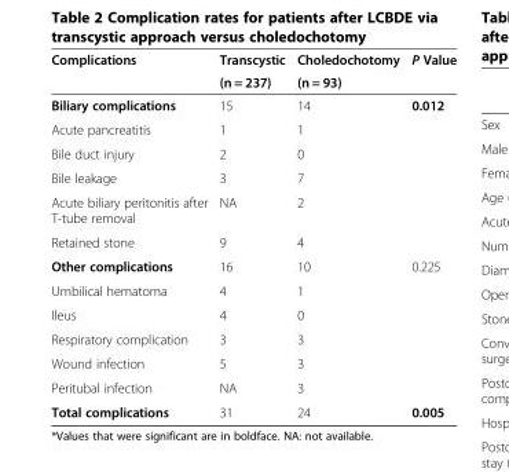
<table><thead><tr><td rowspan="2">Complications</td><td rowspan="2">Transcystic (n = 237)</td><td rowspan="2">Choledochotomy (n = 93)</td><td rowspan="2">P Value</td></tr><tr></tr></thead><tbody><tr><td>Biliary complications</td><td>15</td><td>14</td><td>0.012</td></tr><tr><td>Acute pancreatitis</td><td>1</td><td>1</td><td></td></tr><tr><td>Bile duct injury</td><td>2</td><td>0</td><td></td></tr><tr><td>Bile leakage</td><td>3</td><td>7</td><td></td></tr><tr><td>Acute biliary peritonitis after T-tube removal</td><td>NA</td><td>2</td><td></td></tr><tr><td>Retained stone</td><td>9</td><td>4</td><td></td></tr><tr><td>Other complications</td><td>16</td><td>10</td><td>0.225</td></tr><tr><td>Umbilical hematoma</td><td>4</td><td>1</td><td></td></tr><tr><td>Ileus</td><td>4</td><td>0</td><td></td></tr><tr><td>Respiratory complication</td><td>3</td><td>3</td><td></td></tr><tr><td>Wound infection</td><td>5</td><td>3</td><td></td></tr><tr><td>Peritubal infection</td><td>NA</td><td>3</td><td></td></tr><tr><td>Total complications</td><td>31</td><td>24</td><td>0.005</td></tr></tbody></table>